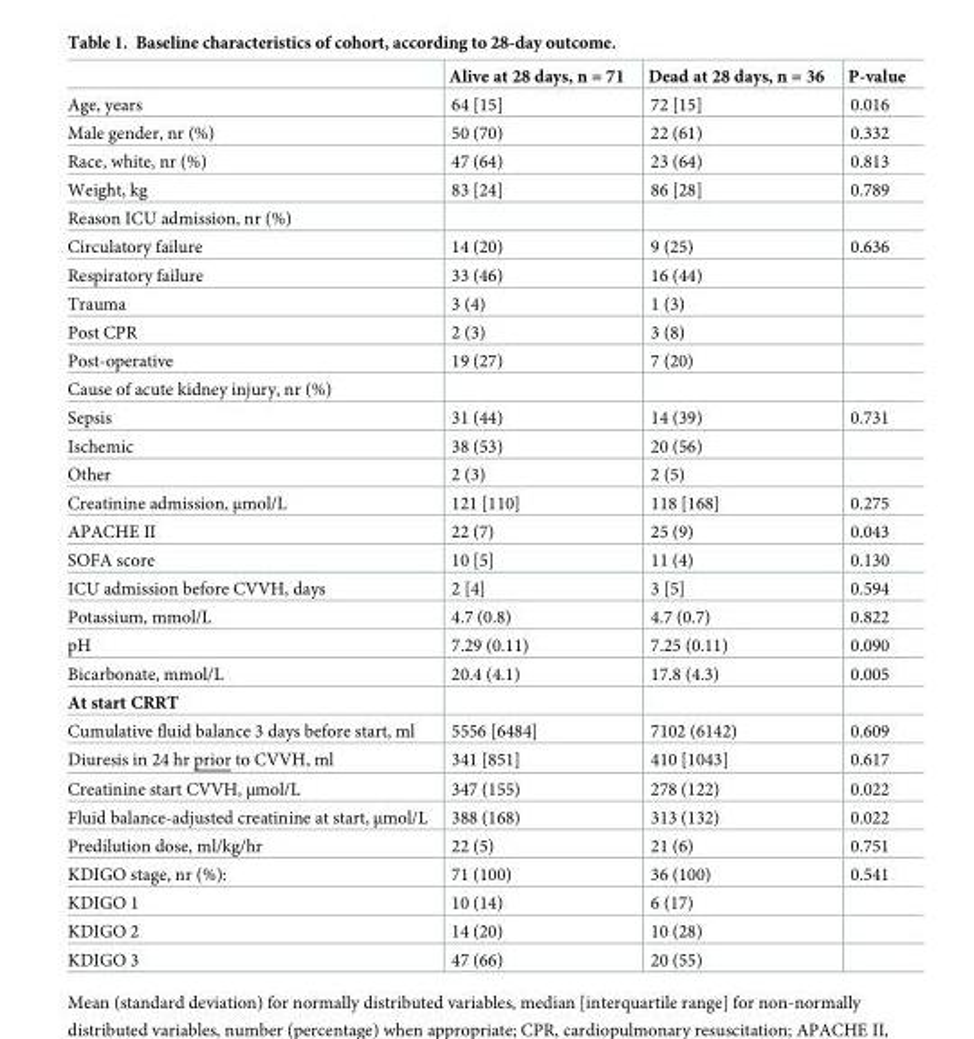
<table><thead><tr><td></td><td>Alive at 28 days, n = 71</td><td>Dead at 28 days, n = 36</td><td>P-value</td></tr></thead><tbody><tr><td>Age, years</td><td>64 [15]</td><td>72 [15]</td><td>0.016</td></tr><tr><td>Male gender, nr (%)</td><td>50 (70)</td><td>22 (61)</td><td>0.332</td></tr><tr><td>Race, white, nr (%)</td><td>47 (64)</td><td>23 (64)</td><td>0.813</td></tr><tr><td>Weight, kg</td><td>83 [24]</td><td>86 [28]</td><td>0.789</td></tr><tr><td colspan="4">Reason ICU admission, nr (%)</td></tr><tr><td>Circulatory failure</td><td>14 (20)</td><td>9 (25)</td><td>0.636</td></tr><tr><td>Respiratory failure</td><td>33 (46)</td><td>16 (44)</td><td></td></tr><tr><td>Trauma</td><td>3 (4)</td><td>1 (3)</td><td></td></tr><tr><td>Post CPR</td><td>2 (3)</td><td>3 (8)</td><td></td></tr><tr><td>Post-operative</td><td>19 (27)</td><td>7 (20)</td><td></td></tr><tr><td colspan="4">Cause of acute kidney injury, nr (%)</td></tr><tr><td>Sepsis</td><td>31 (44)</td><td>14 (39)</td><td>0.731</td></tr><tr><td>Ischemic</td><td>38 (53)</td><td>20 (56)</td><td></td></tr><tr><td>Other</td><td>2 (3)</td><td>2 (5)</td><td></td></tr><tr><td>Creatinine admission, μmol/L</td><td>121 [110]</td><td>118 [168]</td><td>0.275</td></tr><tr><td>APACHE II</td><td>22 (7)</td><td>25 (9)</td><td>0.043</td></tr><tr><td>SOFA score</td><td>10 [5]</td><td>11 (4)</td><td>0.130</td></tr><tr><td>ICU admission before CVVH, days</td><td>2 [4]</td><td>3 [5]</td><td>0.594</td></tr><tr><td>Potassium, mmol/L</td><td>4.7 (0.8)</td><td>4.7 (0.7)</td><td>0.822</td></tr><tr><td>pH</td><td>7.29 (0.11)</td><td>7.25 (0.11)</td><td>0.090</td></tr><tr><td>Bicarbonate, mmol/L</td><td>20.4 (4.1)</td><td>17.8 (4.3)</td><td>0.005</td></tr><tr><td colspan="4">At start CRRT</td></tr><tr><td>Cumulative fluid balance 3 days before start, ml</td><td>5556 [6484]</td><td>7102 (6142)</td><td>0.609</td></tr><tr><td>Diuresis in 24 hr prior to CVVH, ml</td><td>341 [851]</td><td>410 [1043]</td><td>0.617</td></tr><tr><td>Creatinine start CVVH, μmol/L</td><td>347 (155)</td><td>278 (122)</td><td>0.022</td></tr><tr><td>Fluid balance-adjusted creatinine at start, μmol/L</td><td>388 (168)</td><td>313 (132)</td><td>0.022</td></tr><tr><td>Predilution dose, ml/kg/hr</td><td>22 (5)</td><td>21 (6)</td><td>0.751</td></tr><tr><td>KDIGO stage, nr (%):</td><td>71 (100)</td><td>36 (100)</td><td>0.541</td></tr><tr><td>KDIGO 1</td><td>10 (14)</td><td>6 (17)</td><td></td></tr><tr><td>KDIGO 2</td><td>14 (20)</td><td>10 (28)</td><td></td></tr><tr><td>KDIGO 3</td><td>47 (66)</td><td>20 (55)</td><td></td></tr></tbody></table>